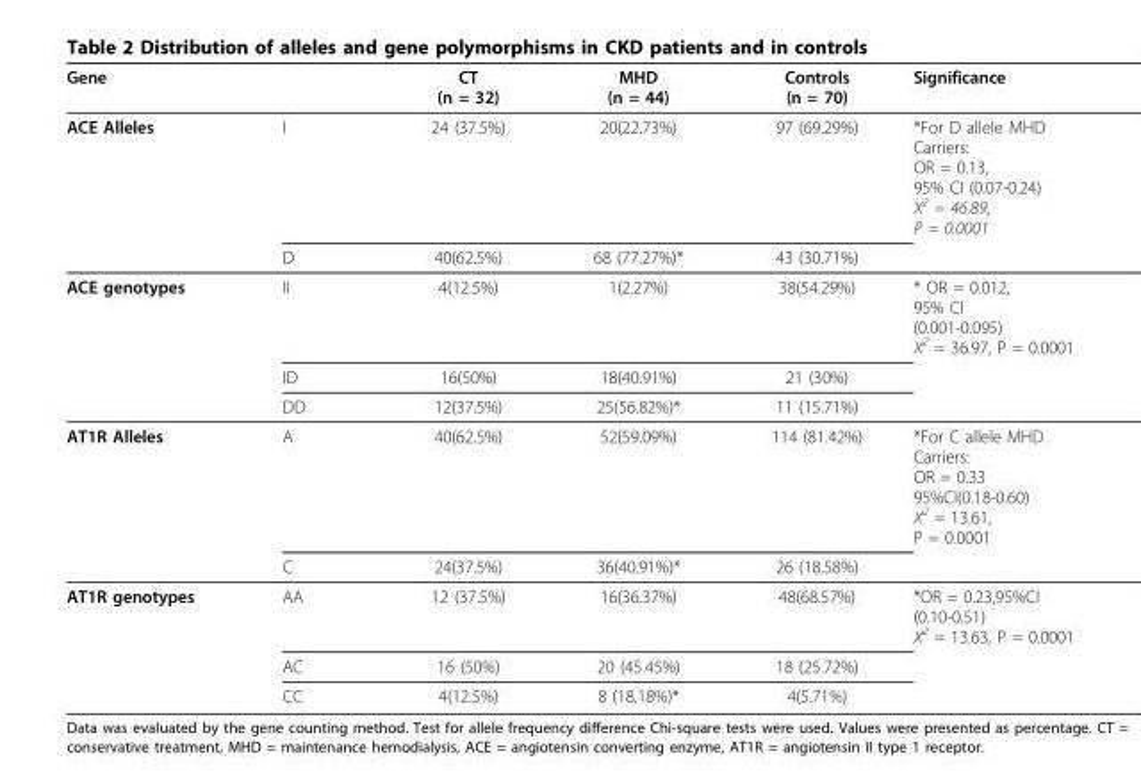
<table><thead><tr><td colspan="2">Gene</td><td rowspan="2">CT (n = 32) 24 (37.5%)</td><td rowspan="2">MHD (n = 44) 20(22.73%)</td><td rowspan="2">Controls (n = 70) 97 (69.29%)</td><td rowspan="2">Significance *For D allele MHD Carriers: OR = 0.13, 95% CI (0.07-0.24) X2 = 46.89, P = 0.0001</td></tr><tr><td>ACE Alleles</td><td>I</td></tr></thead><tbody><tr><td></td><td>D</td><td>40(62.5%)</td><td>68 (77.27%)*</td><td>43 (30.71%)</td><td></td></tr><tr><td rowspan="3">ACE genotypes</td><td>II</td><td>4(12.5%)</td><td>1(2.27%)</td><td>38(54.29%)</td><td>* OR = 0.012, 95% CI (0.001-0.095) X<sup>2</sup> = 36.97, P = 0.0001</td></tr><tr><td>ID</td><td>16(50%)</td><td>18(40.91%)</td><td>21 (30%)</td><td></td></tr><tr><td>DD</td><td>12(37.5%)</td><td>25(56.82%)*</td><td>11 (15.71%)</td><td></td></tr><tr><td rowspan="2">AT1R Alleles</td><td>A</td><td>40(62.5%)</td><td>52(59.09%)</td><td>114 (81.42%)</td><td>*For C allele MHD Carriers: OR = 0.33 95%CI(0.18-0.60) X<sup>2</sup> = 13.61, P = 0.0001</td></tr><tr><td>C</td><td>24(37.5%)</td><td>36(40.91%)*</td><td>26 (18.58%)</td><td></td></tr><tr><td rowspan="3">AT1R genotypes</td><td>AA</td><td>12 (37.5%)</td><td>16(36.37%)</td><td>48(68.57%)</td><td>*OR = 0.23,95%CI (0.10-0.51) X<sup>2</sup> = 13.63, P = 0.0001</td></tr><tr><td>AC</td><td>16 (50%)</td><td>20 (45.45%)</td><td>18 (25.72%)</td><td></td></tr><tr><td>CC</td><td>4(12.5%)</td><td>8 (18.18%)*</td><td>4(5.71%)</td><td></td></tr></tbody></table>